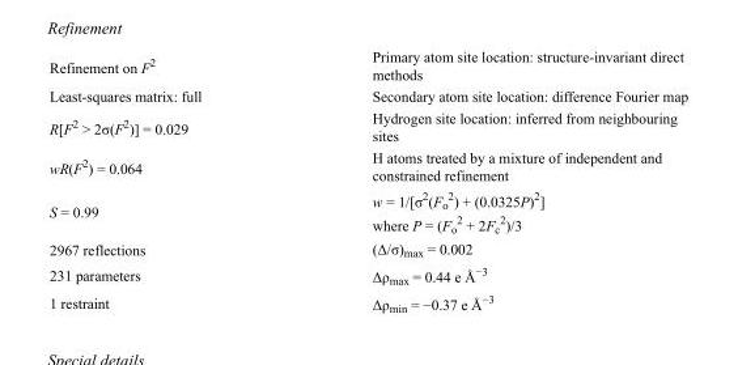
<table><tbody><tr><td>Refinement on F<sup>2</sup></td><td>Primary atom site location: structure-invariant direct methods</td></tr><tr><td>Least-squares matrix: full</td><td>Secondary atom site location: difference Fourier map</td></tr><tr><td>R[F<sup>2</sup> &gt; 2σ(F<sup>2</sup>)] = 0.029</td><td>Hydrogen site location: inferred from neighbouring sites</td></tr><tr><td>wR(F<sup>2</sup>) = 0.064</td><td>H atoms treated by a mixture of independent and constrained refinement</td></tr><tr><td>S = 0.99</td><td>w = 1/[σ<sup>2</sup>(F<sub>o</sub> <sup>2</sup>) + (0.0325P)<sup>2</sup>] where P = (F<sub>o</sub> <sup>2</sup> + 2F<sub>c</sub> <sup>2</sup>)/3</td></tr><tr><td>2967 reflections</td><td>(Δ/σ)<sub>max</sub> = 0.002</td></tr><tr><td>231 parameters</td><td>Δρ<sub>max</sub> = 0.44 e Å<sup>−3</sup></td></tr><tr><td>1 restraint</td><td>Δρ<sub>min</sub> = −0.37 e Å<sup>−3</sup></td></tr></tbody></table>